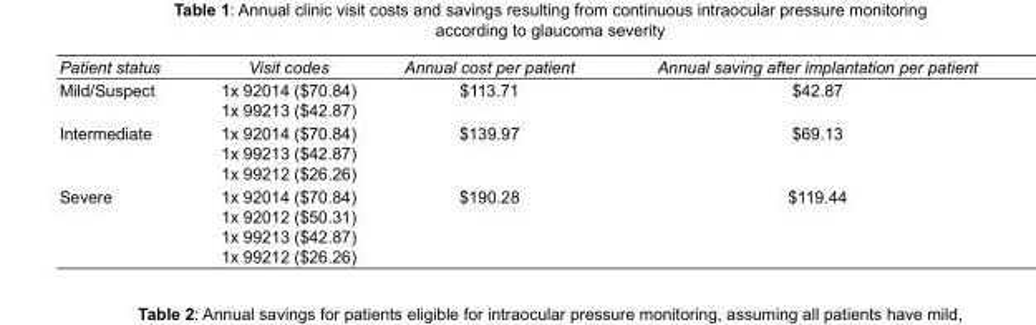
<table><tbody><tr><td>Patient status</td><td>Visit codes</td><td>Annual cost per patient</td><td>Annual saving after implantation per patient</td></tr><tr><td rowspan="2">Mild/Suspect</td><td>1x 92014 ($70.84)</td><td>$113.71</td><td>$42.87</td></tr><tr><td>1x 99213 ($42.87)</td><td></td><td></td></tr><tr><td rowspan="3">Intermediate</td><td>1x 92014 ($70.84)</td><td>$139.97</td><td>$69.13</td></tr><tr><td>1x 99213 ($42.87)</td><td></td><td></td></tr><tr><td>1x 99212 ($26.26)</td><td></td><td></td></tr><tr><td rowspan="4">Severe</td><td>1x 92014 ($70.84)</td><td>$190.28</td><td>$119.44</td></tr><tr><td>1x 92012 ($50.31)</td><td></td><td></td></tr><tr><td>1x 99213 ($42.87)</td><td></td><td></td></tr><tr><td>1x 99212 ($26.26)</td><td></td><td></td></tr></tbody></table>